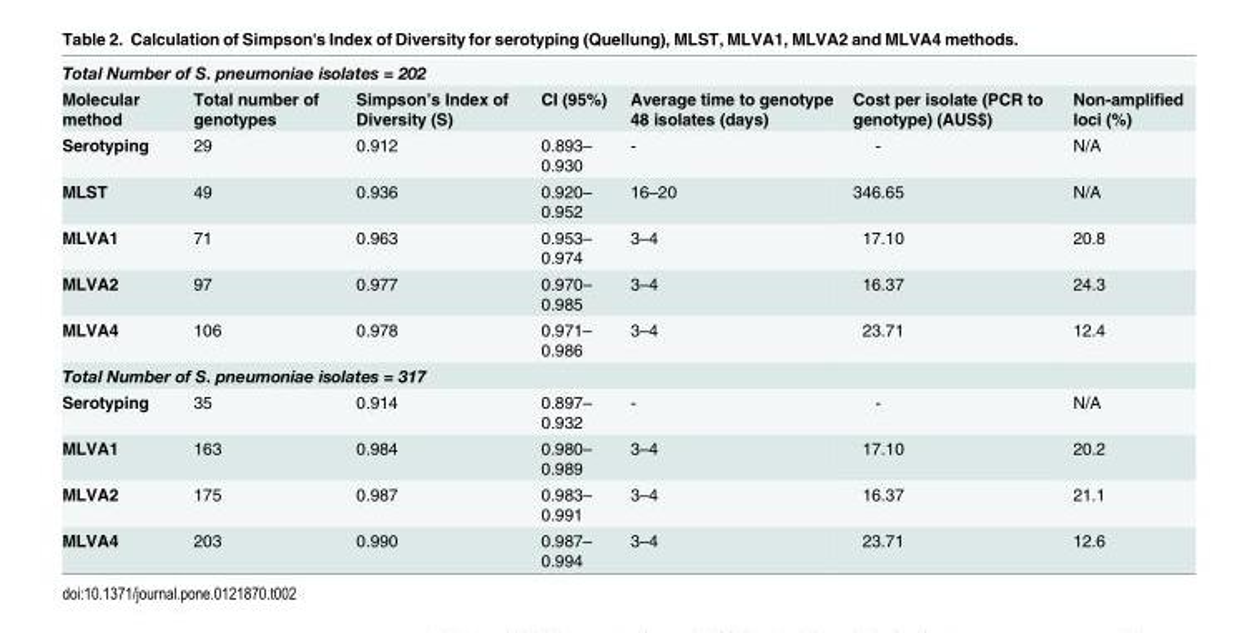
<table><tbody><tr><td colspan="7">Total Number of S. pneumoniae isolates = 202</td></tr><tr><td>Molecular method</td><td>Total number of genotypes</td><td>Simpson’s Index of Diversity (S)</td><td>CI (95%)</td><td>Average time to genotype 48 isolates (days)</td><td>Cost per isolate (PCR to genotype) (AUS$)</td><td>Non-amplified loci (%)</td></tr><tr><td>Serotyping</td><td>29</td><td>0.912</td><td>0.893– 0.930</td><td>-</td><td>-</td><td>N/A</td></tr><tr><td>MLST</td><td>49</td><td>0.936</td><td>0.920– 0.952</td><td>16–20</td><td>346.65</td><td>N/A</td></tr><tr><td>MLVA1</td><td>71</td><td>0.963</td><td>0.953– 0.974</td><td>3–4</td><td>17.10</td><td>20.8</td></tr><tr><td>MLVA2</td><td>97</td><td>0.977</td><td>0.970– 0.985</td><td>3–4</td><td>16.37</td><td>24.3</td></tr><tr><td>MLVA4</td><td>106</td><td>0.978</td><td>0.971– 0.986</td><td>3–4</td><td>23.71</td><td>12.4</td></tr><tr><td colspan="7">Total Number of S. pneumoniae isolates = 317</td></tr><tr><td>Serotyping</td><td>35</td><td>0.914</td><td>0.897– 0.932</td><td>-</td><td>-</td><td>N/A</td></tr><tr><td>MLVA1</td><td>163</td><td>0.984</td><td>0.980– 0.989</td><td>3–4</td><td>17.10</td><td>20.2</td></tr><tr><td>MLVA2</td><td>175</td><td>0.987</td><td>0.983– 0.991</td><td>3–4</td><td>16.37</td><td>21.1</td></tr><tr><td>MLVA4</td><td>203</td><td>0.990</td><td>0.987– 0.994</td><td>3–4</td><td>23.71</td><td>12.6</td></tr></tbody></table>